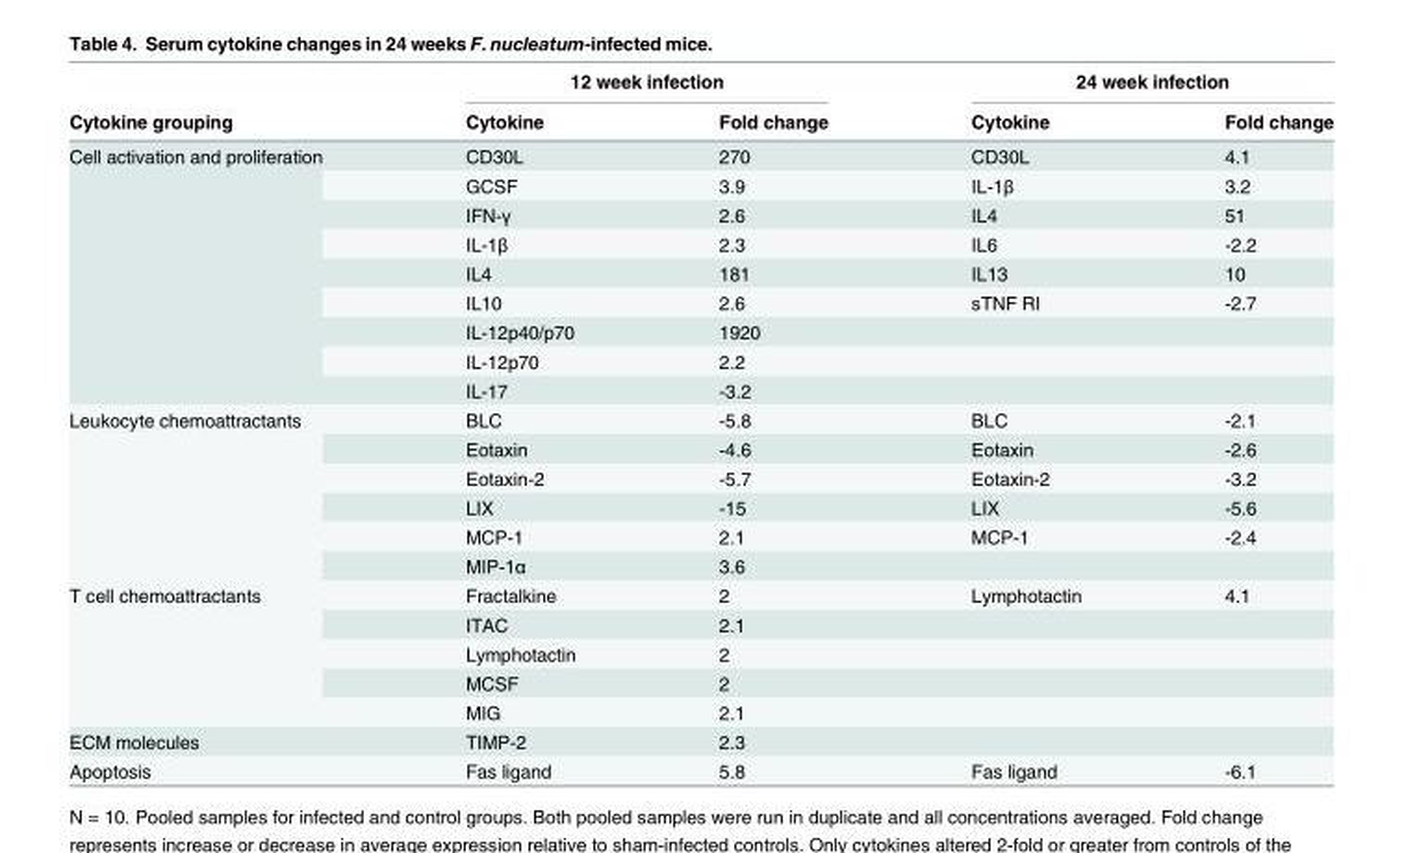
<table><thead><tr><td rowspan="2">Cytokine grouping</td><td colspan="2">12 week infection</td><td colspan="2">24 week infection</td></tr><tr><td>Cytokine</td><td>Fold change</td><td>Cytokine</td><td>Fold change</td></tr></thead><tbody><tr><td rowspan="9">Cell activation and proliferation</td><td>CD30L</td><td>270</td><td>CD30L</td><td>4.1</td></tr><tr><td>GCSF</td><td>3.9</td><td>IL-1β</td><td>3.2</td></tr><tr><td>IFN-γ</td><td>2.6</td><td>IL4</td><td>51</td></tr><tr><td>IL-1β</td><td>2.3</td><td>IL6</td><td>-2.2</td></tr><tr><td>IL4</td><td>181</td><td>IL13</td><td>10</td></tr><tr><td>IL10</td><td>2.6</td><td>sTNF RI</td><td>-2.7</td></tr><tr><td>IL-12p40/p70</td><td>1920</td><td></td><td></td></tr><tr><td>IL-12p70</td><td>2.2</td><td></td><td></td></tr><tr><td>IL-17</td><td>-3.2</td><td></td><td></td></tr><tr><td rowspan="6">Leukocyte chemoattractants</td><td>BLC</td><td>-5.8</td><td>BLC</td><td>-2.1</td></tr><tr><td>Eotaxin</td><td>-4.6</td><td>Eotaxin</td><td>-2.6</td></tr><tr><td>Eotaxin-2</td><td>-5.7</td><td>Eotaxin-2</td><td>-3.2</td></tr><tr><td>LIX</td><td>-15</td><td>LIX</td><td>-5.6</td></tr><tr><td>MCP-1</td><td>2.1</td><td>MCP-1</td><td>-2.4</td></tr><tr><td>MIP-1α</td><td>3.6</td><td></td><td></td></tr><tr><td rowspan="5">T cell chemoattractants</td><td>Fractalkine</td><td>2</td><td>Lymphotactin</td><td>4.1</td></tr><tr><td>ITAC</td><td>2.1</td><td></td><td></td></tr><tr><td>Lymphotactin</td><td>2</td><td></td><td></td></tr><tr><td>MCSF</td><td>2</td><td></td><td></td></tr><tr><td>MIG</td><td>2.1</td><td></td><td></td></tr><tr><td>ECM molecules</td><td>TIMP-2</td><td>2.3</td><td></td><td></td></tr><tr><td>Apoptosis</td><td>Fas ligand</td><td>5.8</td><td>Fas ligand</td><td>-6.1</td></tr></tbody></table>